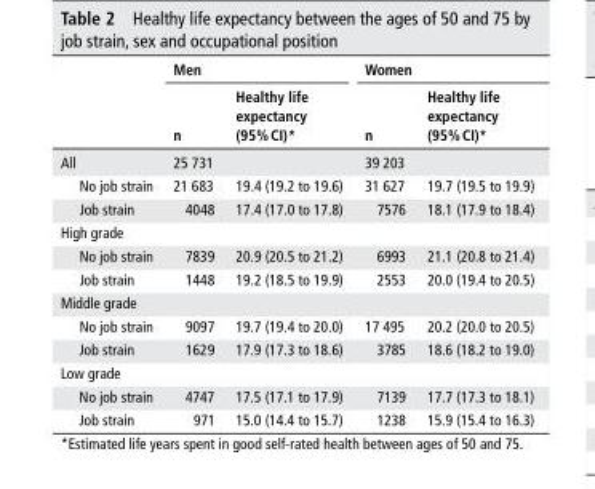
<table><thead><tr><td rowspan="2"></td><td colspan="2">Men</td><td colspan="2">Women</td></tr><tr><td>n</td><td>healthy life expectancy (95% CI)*</td><td>n</td><td>healthy life expectancy (95% CI)*</td></tr></thead><tbody><tr><td>All</td><td>25 731</td><td></td><td>39 203</td><td></td></tr><tr><td>No job strain</td><td>21 683</td><td>19.4 (19.2 to 19.6)</td><td>31 627</td><td>19.7 (19.5 to 19.9)</td></tr><tr><td>Job strain</td><td>4048</td><td>17.4 (17.0 to 17.8)</td><td>7576</td><td>18.1 (17.9 to 18.4)</td></tr><tr><td colspan="5">High grade</td></tr><tr><td>No job strain</td><td>7839</td><td>20.9 (20.5 to 21.2)</td><td>6993</td><td>21.1 (20.8 to 21.4)</td></tr><tr><td>Job strain</td><td>1448</td><td>19.2 (18.5 to 19.9)</td><td>2553</td><td>20.0 (19.4 to 20.5)</td></tr><tr><td colspan="5">Middle grade</td></tr><tr><td>No job strain</td><td>9097</td><td>19.7 (19.4 to 20.0)</td><td>17 495</td><td>20.2 (20.0 to 20.5)</td></tr><tr><td>Job strain</td><td>1629</td><td>17.9 (17.3 to 18.6)</td><td>3785</td><td>18.6 (18.2 to 19.0)</td></tr><tr><td colspan="5">Low grade</td></tr><tr><td>No job strain</td><td>4747</td><td>17.5 (17.1 to 17.9)</td><td>7139</td><td>17.7 (17.3 to 18.1)</td></tr><tr><td>Job strain</td><td>971</td><td>15.0 (14.4 to 15.7)</td><td>1238</td><td>15.9 (15.4 to 16.3)</td></tr></tbody></table>